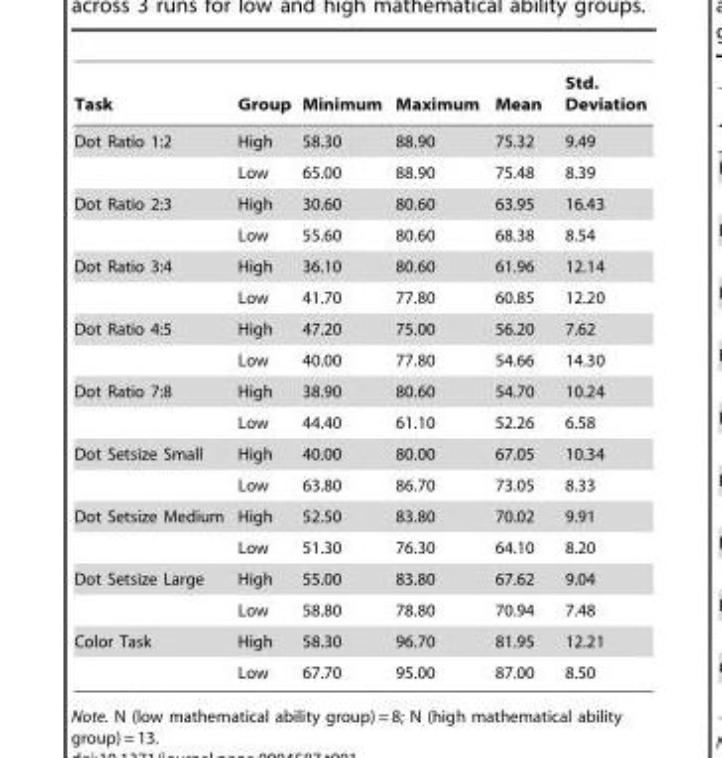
<table><thead><tr><td>Task</td><td>Group</td><td>Minimum</td><td>Maximum</td><td>Mean</td><td>Std. Deviation</td></tr></thead><tbody><tr><td rowspan="2">Dot Ratio 1:2</td><td>High</td><td>58.30</td><td>88.90</td><td>75.32</td><td>9.49</td></tr><tr><td>Low</td><td>65.00</td><td>88.90</td><td>75.48</td><td>8.39</td></tr><tr><td rowspan="2">Dot Ratio 2:3</td><td>High</td><td>30.60</td><td>80.60</td><td>63.95</td><td>16.43</td></tr><tr><td>Low</td><td>55.60</td><td>80.60</td><td>68.38</td><td>8.54</td></tr><tr><td rowspan="2">Dot Ratio 3:4</td><td>High</td><td>36.10</td><td>80.60</td><td>61.96</td><td>12.14</td></tr><tr><td>Low</td><td>41.70</td><td>77.80</td><td>60.85</td><td>12.20</td></tr><tr><td rowspan="2">Dot Ratio 4:5</td><td>High</td><td>47.20</td><td>75.00</td><td>56.20</td><td>7.62</td></tr><tr><td>Low</td><td>40.00</td><td>77.80</td><td>54.66</td><td>14.30</td></tr><tr><td rowspan="2">Dot Ratio 7:8</td><td>High</td><td>38.90</td><td>80.60</td><td>54.70</td><td>10.24</td></tr><tr><td>Low</td><td>44.40</td><td>61.10</td><td>52.26</td><td>6.58</td></tr><tr><td rowspan="2">Dot Setsize Small</td><td>High</td><td>40.00</td><td>80.00</td><td>67.05</td><td>10.34</td></tr><tr><td>Low</td><td>63.80</td><td>86.70</td><td>73.05</td><td>8.33</td></tr><tr><td rowspan="2">Dot Setsize Medium</td><td>High</td><td>52.50</td><td>83.80</td><td>70.02</td><td>9.91</td></tr><tr><td>Low</td><td>51.30</td><td>76.30</td><td>64.10</td><td>8.20</td></tr><tr><td rowspan="2">Dot Setsize Large</td><td>High</td><td>55.00</td><td>83.80</td><td>67.62</td><td>9.04</td></tr><tr><td>Low</td><td>58.80</td><td>78.80</td><td>70.94</td><td>7.48</td></tr><tr><td rowspan="2">Color Task</td><td>High</td><td>58.30</td><td>96.70</td><td>81.95</td><td>12.21</td></tr><tr><td>Low</td><td>67.70</td><td>95.00</td><td>87.00</td><td>8.50</td></tr></tbody></table>